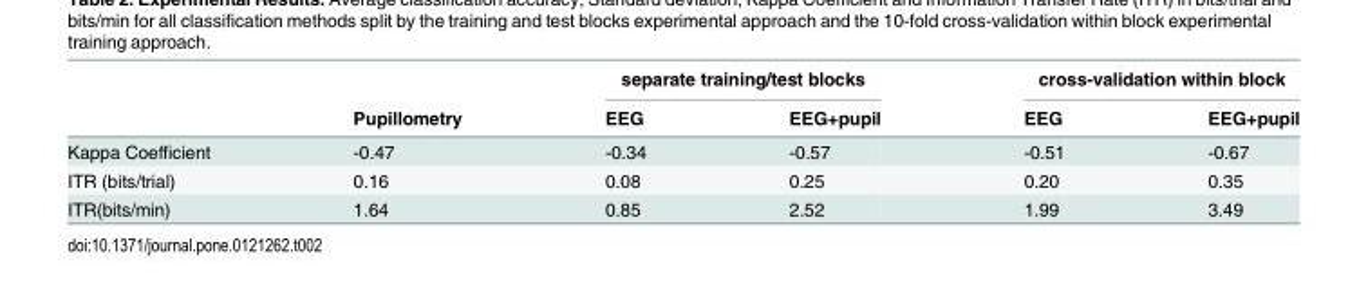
<table><thead><tr><td rowspan="2"></td><td rowspan="2">Pupillometry</td><td colspan="2">separate training/test blocks</td><td colspan="2">cross-validation within block</td></tr><tr><td>EEG</td><td>EEG+pupil</td><td>EEG</td><td>EEG+pupil</td></tr></thead><tbody><tr><td>Kappa Coefficient</td><td>-0.47</td><td>-0.34</td><td>-0.57</td><td>-0.51</td><td>-0.67</td></tr><tr><td>ITR (bits/trial)</td><td>0.16</td><td>0.08</td><td>0.25</td><td>0.20</td><td>0.35</td></tr><tr><td>ITR(bits/min)</td><td>1.64</td><td>0.85</td><td>2.52</td><td>1.99</td><td>3.49</td></tr></tbody></table>